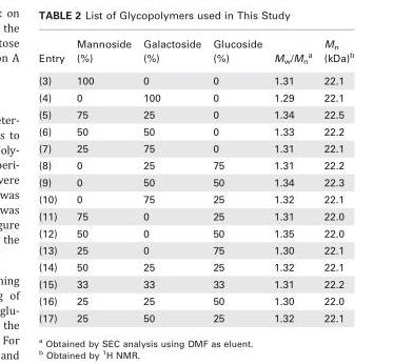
<table><thead><tr><td>Entry</td><td>Mannoside (%)</td><td>Galactoside (%)</td><td>Glucoside (%)</td><td>M<sub>w</sub>/M<sub>n</sub> <sup>a</sup></td><td>M<sub>n</sub> (kDa)<sup>b</sup></td></tr></thead><tbody><tr><td>(3)</td><td>100</td><td>0</td><td>0</td><td>1.31</td><td>22.1</td></tr><tr><td>(4)</td><td>0</td><td>100</td><td>0</td><td>1.29</td><td>22.1</td></tr><tr><td>(5)</td><td>75</td><td>25</td><td>0</td><td>1.34</td><td>22.5</td></tr><tr><td>(6)</td><td>50</td><td>50</td><td>0</td><td>1.33</td><td>22.2</td></tr><tr><td>(7)</td><td>25</td><td>75</td><td>0</td><td>1.31</td><td>22.1</td></tr><tr><td>(8)</td><td>0</td><td>25</td><td>75</td><td>1.31</td><td>22.2</td></tr><tr><td>(9)</td><td>0</td><td>50</td><td>50</td><td>1.34</td><td>22.3</td></tr><tr><td>(10)</td><td>0</td><td>75</td><td>25</td><td>1.32</td><td>22.1</td></tr><tr><td>(11)</td><td>75</td><td>0</td><td>25</td><td>1.31</td><td>22.0</td></tr><tr><td>(12)</td><td>50</td><td>0</td><td>50</td><td>1.35</td><td>22.0</td></tr><tr><td>(13)</td><td>25</td><td>0</td><td>75</td><td>1.30</td><td>22.1</td></tr><tr><td>(14)</td><td>50</td><td>25</td><td>25</td><td>1.32</td><td>22.1</td></tr><tr><td>(15)</td><td>33</td><td>33</td><td>33</td><td>1.31</td><td>22.2</td></tr><tr><td>(16)</td><td>25</td><td>25</td><td>50</td><td>1.30</td><td>22.0</td></tr><tr><td>(17)</td><td>25</td><td>50</td><td>25</td><td>1.32</td><td>22.1</td></tr></tbody></table>